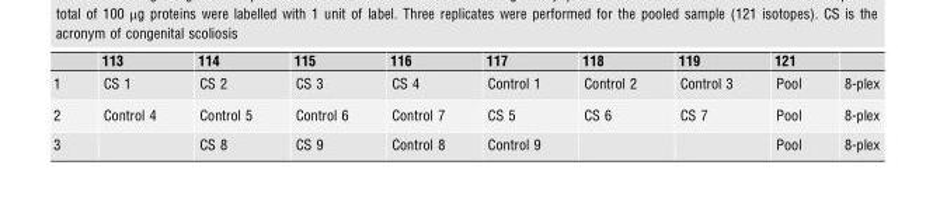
<table><thead><tr><td></td><td>113</td><td>114</td><td>115</td><td>116</td><td>117</td><td>118</td><td>119</td><td>121</td><td></td></tr></thead><tbody><tr><td>1</td><td>CS 1</td><td>CS 2</td><td>CS 3</td><td>CS 4</td><td>Control 1</td><td>Control 2</td><td>Control 3</td><td>Pool</td><td>8-plex</td></tr><tr><td>2</td><td>Control 4</td><td>Control 5</td><td>Control 6</td><td>Control 7</td><td>CS 5</td><td>CS 6</td><td>CS 7</td><td>Pool</td><td>8-plex</td></tr><tr><td>3</td><td></td><td>CS 8</td><td>CS 9</td><td>Control 8</td><td>Control 9</td><td></td><td></td><td>Pool</td><td>8-plex</td></tr></tbody></table>